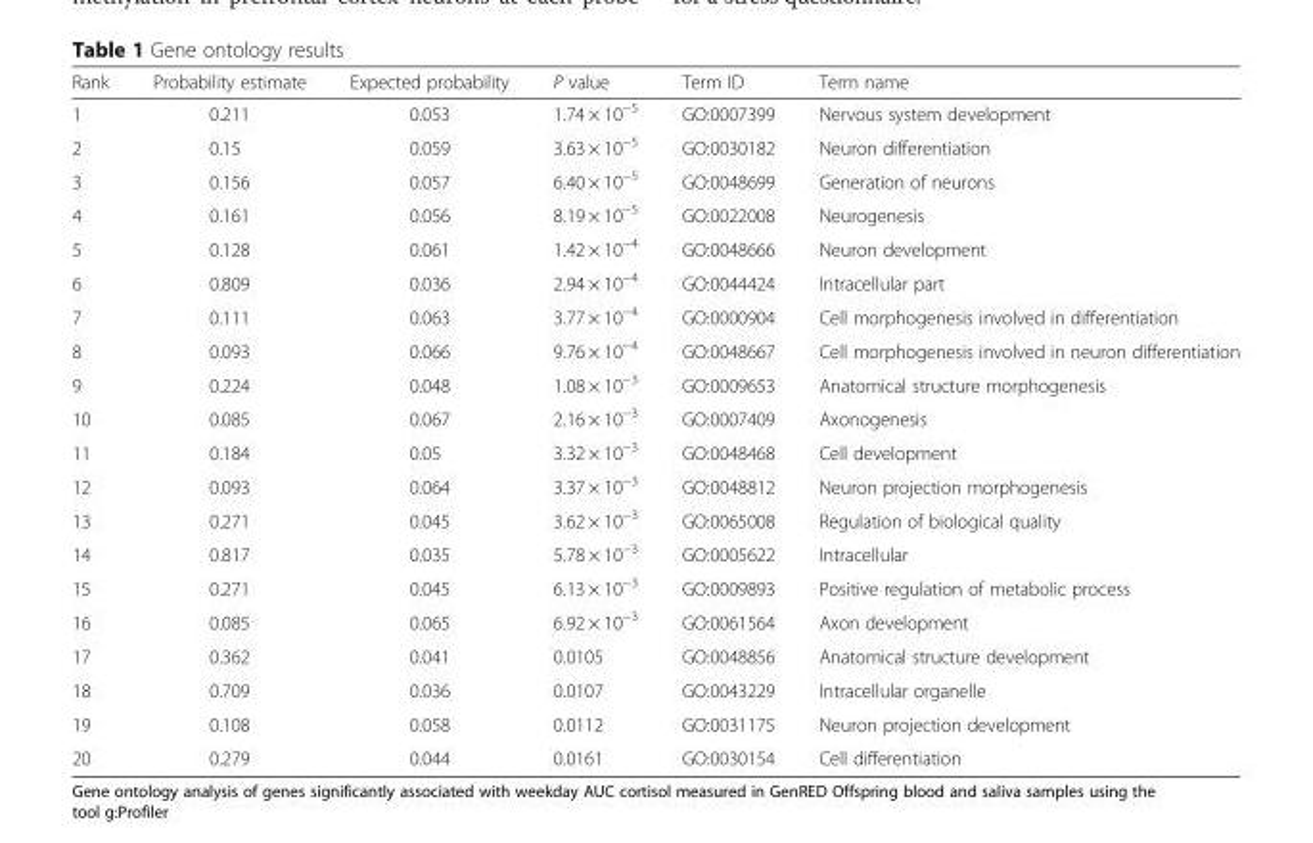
<table><thead><tr><td>Rank</td><td>Probability estimate</td><td>Expected probability</td><td>P value</td><td>Term ID</td><td>Term name</td></tr></thead><tbody><tr><td>1</td><td>0.211</td><td>0.053</td><td>1.74 × 10<sup>−5</sup></td><td>GO:0007399</td><td>Nervous system development</td></tr><tr><td>2</td><td>0.15</td><td>0.059</td><td>3.63 × 10<sup>−5</sup></td><td>GO:0030182</td><td>Neuron differentiation</td></tr><tr><td>3</td><td>0.156</td><td>0.057</td><td>6.40 × 10<sup>−5</sup></td><td>GO:0048699</td><td>Generation of neurons</td></tr><tr><td>4</td><td>0.161</td><td>0.056</td><td>8.19 × 10<sup>−5</sup></td><td>GO:0022008</td><td>Neurogenesis</td></tr><tr><td>5</td><td>0.128</td><td>0.061</td><td>1.42 × 10<sup>−4</sup></td><td>GO:0048666</td><td>Neuron development</td></tr><tr><td>6</td><td>0.809</td><td>0.036</td><td>2.94 × 10<sup>−4</sup></td><td>GO:0044424</td><td>Intracellular part</td></tr><tr><td>7</td><td>0.111</td><td>0.063</td><td>3.77 × 10<sup>−4</sup></td><td>GO:0000904</td><td>Cell morphogenesis involved in differentiation</td></tr><tr><td>8</td><td>0.093</td><td>0.066</td><td>9.76 × 10<sup>−4</sup></td><td>GO:0048667</td><td>Cell morphogenesis involved in neuron differentiation</td></tr><tr><td>9</td><td>0.224</td><td>0.048</td><td>1.08 × 10<sup>−3</sup></td><td>GO:0009653</td><td>Anatomical structure morphogenesis</td></tr><tr><td>10</td><td>0.085</td><td>0.067</td><td>2.16 × 10<sup>−3</sup></td><td>GO:0007409</td><td>Axonogenesis</td></tr><tr><td>11</td><td>0.184</td><td>0.05</td><td>3.32 × 10<sup>−3</sup></td><td>GO:0048468</td><td>Cell development</td></tr><tr><td>12</td><td>0.093</td><td>0.064</td><td>3.37 × 10<sup>−3</sup></td><td>GO:0048812</td><td>Neuron projection morphogenesis</td></tr><tr><td>13</td><td>0.271</td><td>0.045</td><td>3.62 × 10<sup>−3</sup></td><td>GO:0065008</td><td>Regulation of biological quality</td></tr><tr><td>14</td><td>0.817</td><td>0.035</td><td>5.78 × 10<sup>−3</sup></td><td>GO:0005622</td><td>Intracellular</td></tr><tr><td>15</td><td>0.271</td><td>0.045</td><td>6.13 × 10<sup>−3</sup></td><td>GO:0009893</td><td>Positive regulation of metabolic process</td></tr><tr><td>16</td><td>0.085</td><td>0.065</td><td>6.92 × 10<sup>−3</sup></td><td>GO:0061564</td><td>Axon development</td></tr><tr><td>17</td><td>0.362</td><td>0.041</td><td>0.0105</td><td>GO:0048856</td><td>Anatomical structure development</td></tr><tr><td>18</td><td>0.709</td><td>0.036</td><td>0.0107</td><td>GO:0043229</td><td>Intracellular organelle</td></tr><tr><td>19</td><td>0.108</td><td>0.058</td><td>0.0112</td><td>GO:0031175</td><td>Neuron projection development</td></tr><tr><td>20</td><td>0.279</td><td>0.044</td><td>0.0161</td><td>GO:0030154</td><td>Cell differentiation</td></tr></tbody></table>